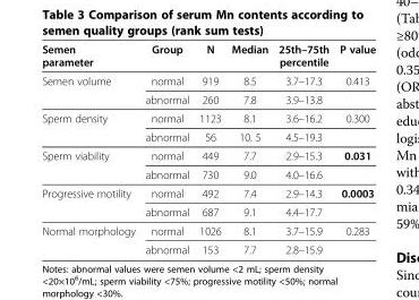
<table><thead><tr><td>Semen parameter</td><td>Group</td><td>N</td><td>Median</td><td>25th–75th percentile</td><td>P value</td></tr></thead><tbody><tr><td rowspan="2">Semen volume</td><td>normal</td><td>919</td><td>8.5</td><td>3.7–17.3</td><td>0.413</td></tr><tr><td>abnormal</td><td>260</td><td>7.8</td><td>3.9–13.8</td><td></td></tr><tr><td rowspan="2">Sperm density</td><td>normal</td><td>1123</td><td>8.1</td><td>3.6–16.2</td><td>0.300</td></tr><tr><td>abnormal</td><td>56</td><td>10. 5</td><td>4.5–19.3</td><td></td></tr><tr><td rowspan="2">Sperm viability</td><td>normal</td><td>449</td><td>7.7</td><td>2.9–15.3</td><td>0.031</td></tr><tr><td>abnormal</td><td>730</td><td>9.0</td><td>4.0–16.6</td><td></td></tr><tr><td rowspan="2">Progressive motility</td><td>normal</td><td>492</td><td>7.4</td><td>2.9–14.3</td><td>0.0003</td></tr><tr><td>abnormal</td><td>687</td><td>9.1</td><td>4.4–17.7</td><td></td></tr><tr><td rowspan="2">Normal morphology</td><td>normal</td><td>1026</td><td>8.1</td><td>3.7–15.9</td><td>0.283</td></tr><tr><td>abnormal</td><td>153</td><td>7.7</td><td>2.8–15.9</td><td></td></tr></tbody></table>